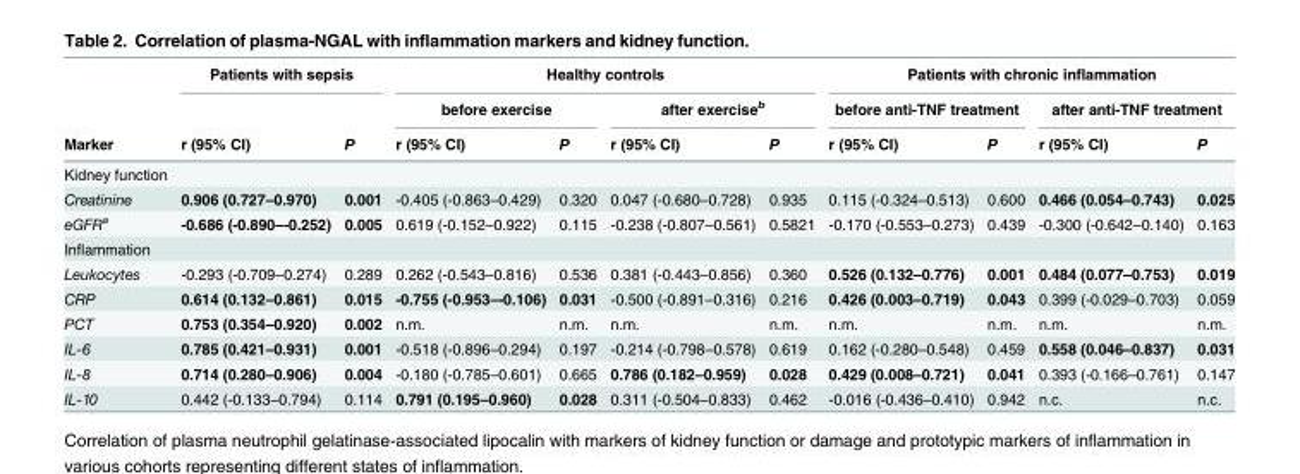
<table><thead><tr><td rowspan="3">Marker</td><td colspan="2">Patients with sepsis</td><td colspan="4">Healthy controls</td><td colspan="4">Patients with chronic inflammation</td></tr><tr><td rowspan="2">r (95% CI)</td><td rowspan="2">P</td><td colspan="2">before exercise</td><td colspan="2">after exercise<sup>b</sup></td><td colspan="2">before anti-TNF treatment</td><td colspan="2">after anti-TNF treatment</td></tr><tr><td>r (95% CI)</td><td>P</td><td>r (95% CI)</td><td>P</td><td>r (95% CI)</td><td>P</td><td>r (95% CI)</td><td>P</td></tr></thead><tbody><tr><td colspan="11">Kidney function</td></tr><tr><td>Creatinine</td><td>0.906 (0.727–0.970)</td><td>0.001</td><td>-0.405 (-0.863–0.429)</td><td>0.320</td><td>0.047 (-0.680–0.728)</td><td>0.935</td><td>0.115 (-0.324–0.513)</td><td>0.600</td><td>0.466 (0.054–0.743)</td><td>0.025</td></tr><tr><td>eGFR<sup>a</sup></td><td>-0.686 (-0.890–-0.252)</td><td>0.005</td><td>0.619 (-0.152–0.922)</td><td>0.115</td><td>-0.238 (-0.807–0.561)</td><td>0.5821</td><td>-0.170 (-0.553–0.273)</td><td>0.439</td><td>-0.300 (-0.642–0.140)</td><td>0.163</td></tr><tr><td colspan="11">Inflammation</td></tr><tr><td>Leukocytes</td><td>-0.293 (-0.709–0.274)</td><td>0.289</td><td>0.262 (-0.543–0.816)</td><td>0.536</td><td>0.381 (-0.443–0.856)</td><td>0.360</td><td>0.526 (0.132–0.776)</td><td>0.001</td><td>0.484 (0.077–0.753)</td><td>0.019</td></tr><tr><td>CRP</td><td>0.614 (0.132–0.861)</td><td>0.015</td><td>-0.755 (-0.953–-0.106)</td><td>0.031</td><td>-0.500 (-0.891–0.316)</td><td>0.216</td><td>0.426 (0.003–0.719)</td><td>0.043</td><td>0.399 (-0.029–0.703)</td><td>0.059</td></tr><tr><td>PCT</td><td>0.753 (0.354–0.920)</td><td>0.002</td><td>n.m.</td><td>n.m.</td><td>n.m.</td><td>n.m.</td><td>n.m.</td><td>n.m.</td><td>n.m.</td><td>n.m.</td></tr><tr><td>IL-6</td><td>0.785 (0.421–0.931)</td><td>0.001</td><td>-0.518 (-0.896–0.294)</td><td>0.197</td><td>-0.214 (-0.798–0.578)</td><td>0.619</td><td>0.162 (-0.280–0.548)</td><td>0.459</td><td>0.558 (0.046–0.837)</td><td>0.031</td></tr><tr><td>IL-8</td><td>0.714 (0.280–0.906)</td><td>0.004</td><td>-0.180 (-0.785–0.601)</td><td>0.665</td><td>0.786 (0.182–0.959)</td><td>0.028</td><td>0.429 (0.008–0.721)</td><td>0.041</td><td>0.393 (-0.166–0.761)</td><td>0.147</td></tr><tr><td>IL-10</td><td>0.442 (-0.133–0.794)</td><td>0.114</td><td>0.791 (0.195–0.960)</td><td>0.028</td><td>0.311 (-0.504–0.833)</td><td>0.462</td><td>-0.016 (-0.436–0.410)</td><td>0.942</td><td>n.c.</td><td>n.c.</td></tr></tbody></table>